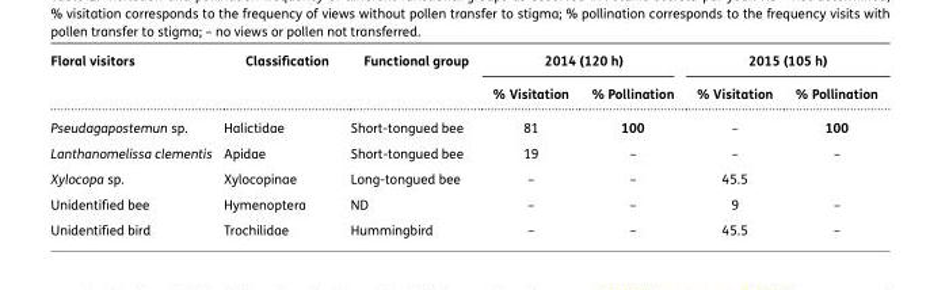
<table><thead><tr><td rowspan="2">Floral visitors</td><td rowspan="2">Classification</td><td rowspan="2">Functional group</td><td colspan="2">2014 (120 h)</td><td colspan="2">2015 (105 h)</td></tr><tr><td>% Visitation</td><td>% Pollination</td><td>% Visitation</td><td>% Pollination</td></tr></thead><tbody><tr><td>Pseudagapostemun sp.</td><td>Halictidae</td><td>Short-tongued bee</td><td>81</td><td>100</td><td>–</td><td>100</td></tr><tr><td>Lanthanomelissa clementis</td><td>Apidae</td><td>Short-tongued bee</td><td>19</td><td>–</td><td>–</td><td>–</td></tr><tr><td>Xylocopa sp.</td><td>Xylocopinae</td><td>Long-tongued bee</td><td>–</td><td>–</td><td>45.5</td><td></td></tr><tr><td>Unidentified bee</td><td>Hymenoptera</td><td>ND</td><td>–</td><td>–</td><td>9</td><td>–</td></tr><tr><td>Unidentified bird</td><td>Trochilidae</td><td>Hummingbird</td><td>–</td><td>–</td><td>45.5</td><td>–</td></tr></tbody></table>